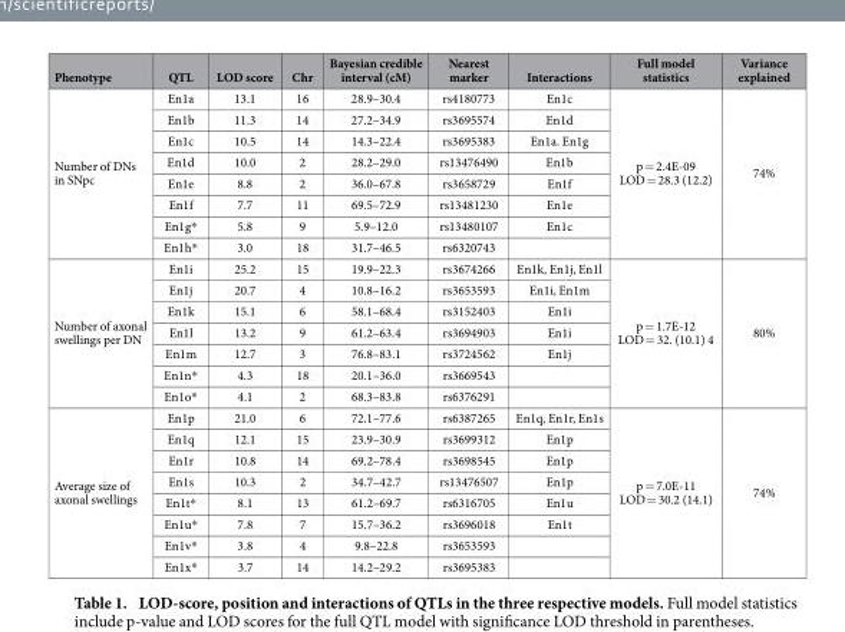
<table><thead><tr><td>Phenotype</td><td>QTL</td><td>LOD score</td><td>Chr</td><td>Bayesian credible interval (cM)</td><td>Nearest marker</td><td>Interactions</td><td>Full model statistics</td><td>Variance explained</td></tr></thead><tbody><tr><td rowspan="8">Number of DNs in SNpc</td><td>En1a</td><td>13.1</td><td>16</td><td>28.9–30.4</td><td>rs4180773</td><td>En1c</td><td rowspan="8">p = 2.4E-09 LOD = 28.3 (12.2)</td><td rowspan="8">74%</td></tr><tr><td>En1b</td><td>11.3</td><td>14</td><td>27.2–34.9</td><td>rs3695574</td><td>En1d</td></tr><tr><td>En1c</td><td>10.5</td><td>14</td><td>14.3–22.4</td><td>rs3695383</td><td>En1a. En1g</td></tr><tr><td>En1d</td><td>10.0</td><td>2</td><td>28.2–29.0</td><td>rs13476490</td><td>En1b</td></tr><tr><td>En1e</td><td>8.8</td><td>2</td><td>36.0–67.8</td><td>rs3658729</td><td>En1f</td></tr><tr><td>En1f</td><td>7.7</td><td>11</td><td>69.5–72.9</td><td>rs13481230</td><td>En1e</td></tr><tr><td>En1g*</td><td>5.8</td><td>9</td><td>5.9–12.0</td><td>rs13480107</td><td>En1c</td></tr><tr><td>En1h*</td><td>3.0</td><td>18</td><td>31.7–46.5</td><td>rs6320743</td><td></td></tr><tr><td rowspan="7">Number of axonal swellings per DN</td><td>En1i</td><td>25.2</td><td>15</td><td>19.9–22.3</td><td>rs3674266</td><td>En1k, En1j, En1l</td><td rowspan="7">p = 1.7E-12 LOD = 32. (10.1) 4</td><td rowspan="7">80%</td></tr><tr><td>En1j</td><td>20.7</td><td>4</td><td>10.8–16.2</td><td>rs3653593</td><td>En1i, En1m</td></tr><tr><td>En1k</td><td>15.1</td><td>6</td><td>58.1–68.4</td><td>rs3152403</td><td>En1i</td></tr><tr><td>En1l</td><td>13.2</td><td>9</td><td>61.2–63.4</td><td>rs3694903</td><td>En1i</td></tr><tr><td>En1m</td><td>12.7</td><td>3</td><td>76.8–83.1</td><td>rs3724562</td><td>En1j</td></tr><tr><td>En1n*</td><td>4.3</td><td>18</td><td>20.1–36.0</td><td>rs3669543</td><td></td></tr><tr><td>En1o*</td><td>4.1</td><td>2</td><td>68.3–83.8</td><td>rs6376291</td><td></td></tr><tr><td rowspan="8">Average size of axonal swellings</td><td>En1p</td><td>21.0</td><td>6</td><td>72.1–77.6</td><td>rs6387265</td><td>En1q, En1r, En1s</td><td rowspan="8">p = 7.0E-11 LOD = 30.2 (14.1)</td><td rowspan="8">74%</td></tr><tr><td>En1q</td><td>12.1</td><td>15</td><td>23.9–30.9</td><td>rs3699312</td><td>En1p</td></tr><tr><td>En1r</td><td>10.8</td><td>14</td><td>69.2–78.4</td><td>rs3698545</td><td>En1p</td></tr><tr><td>En1s</td><td>10.3</td><td>2</td><td>34.7–42.7</td><td>rs13476507</td><td>En1p</td></tr><tr><td>En1t*</td><td>8.1</td><td>13</td><td>61.2–69.7</td><td>rs6316705</td><td>En1u</td></tr><tr><td>En1u*</td><td>7.8</td><td>7</td><td>15.7–36.2</td><td>rs3696018</td><td>En1t</td></tr><tr><td>En1v*</td><td>3.8</td><td>4</td><td>9.8–22.8</td><td>rs3653593</td><td></td></tr><tr><td>En1x*</td><td>3.7</td><td>14</td><td>14.2–29.2</td><td>rs3695383</td><td></td></tr></tbody></table>